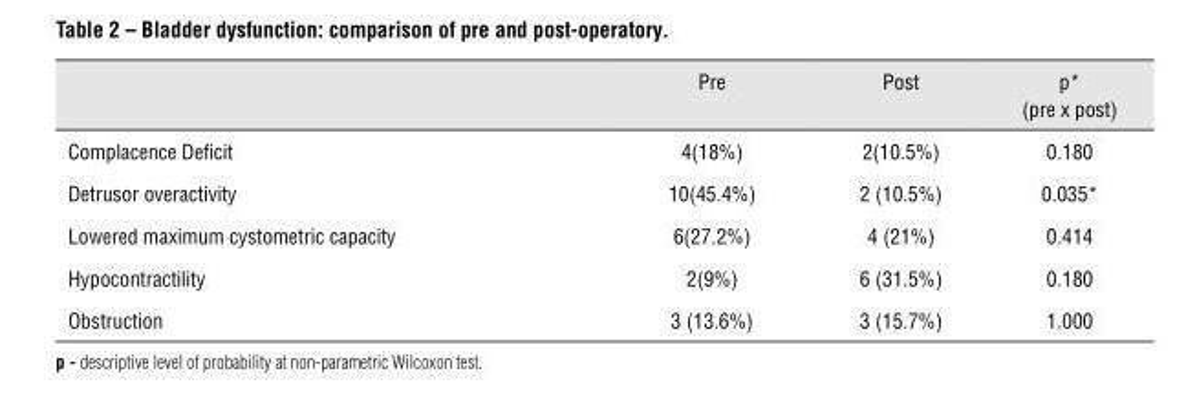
<table><thead><tr><td></td><td>Pre</td><td>Post</td><td>p* (pre x post)</td></tr></thead><tbody><tr><td>Complacence Deficit</td><td>4(18%)</td><td>2(10.5%)</td><td>0.180</td></tr><tr><td>Detrusor overactivity</td><td>10(45.4%)</td><td>2 (10.5%)</td><td>0.035*</td></tr><tr><td>Lowered maximum cystometric capacity</td><td>6(27.2%)</td><td>4 (21%)</td><td>0.414</td></tr><tr><td>Hypocontractility</td><td>2(9%)</td><td>6 (31.5%)</td><td>0.180</td></tr><tr><td>Obstruction</td><td>3 (13.6%)</td><td>3 (15.7%)</td><td>1.000</td></tr></tbody></table>